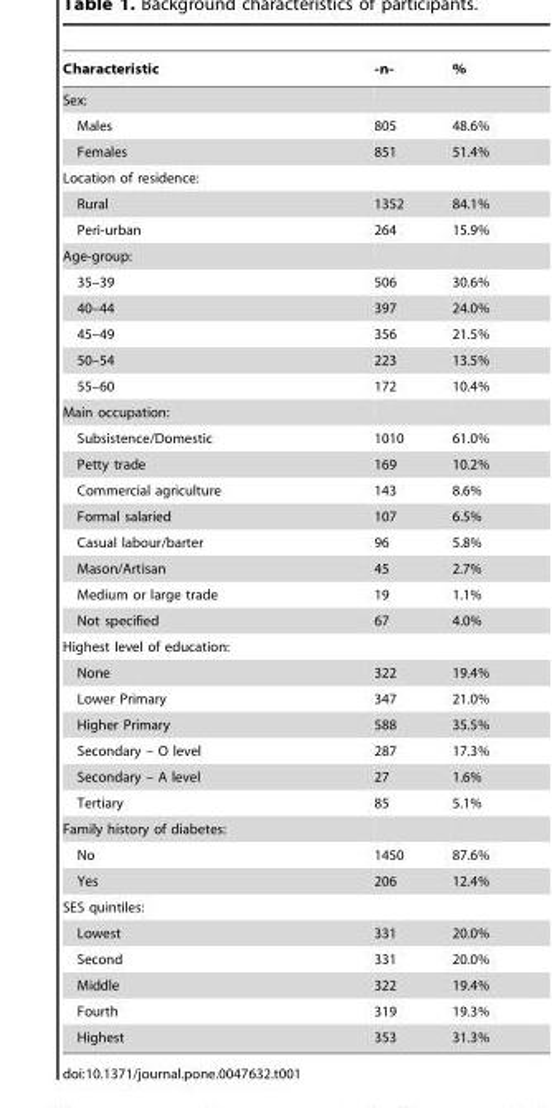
<table><thead><tr><td>Characteristic</td><td>-n-</td><td>%</td></tr></thead><tbody><tr><td colspan="3">Sex:</td></tr><tr><td>Males</td><td>805</td><td>48.6%</td></tr><tr><td>Females</td><td>851</td><td>51.4%</td></tr><tr><td colspan="3">Location of residence:</td></tr><tr><td>Rural</td><td>1352</td><td>84.1%</td></tr><tr><td>Peri-urban</td><td>264</td><td>15.9%</td></tr><tr><td colspan="3">Age-group:</td></tr><tr><td>35–39</td><td>506</td><td>30.6%</td></tr><tr><td>40–44</td><td>397</td><td>24.0%</td></tr><tr><td>45–49</td><td>356</td><td>21.5%</td></tr><tr><td>50–54</td><td>223</td><td>13.5%</td></tr><tr><td>55–60</td><td>172</td><td>10.4%</td></tr><tr><td colspan="3">Main occupation:</td></tr><tr><td>Subsistence/Domestic</td><td>1010</td><td>61.0%</td></tr><tr><td>Petty trade</td><td>169</td><td>10.2%</td></tr><tr><td>Commercial agriculture</td><td>143</td><td>8.6%</td></tr><tr><td>Formal salaried</td><td>107</td><td>6.5%</td></tr><tr><td>Casual labour/barter</td><td>96</td><td>5.8%</td></tr><tr><td>Mason/Artisan</td><td>45</td><td>2.7%</td></tr><tr><td>Medium or large trade</td><td>19</td><td>1.1%</td></tr><tr><td>Not specified</td><td>67</td><td>4.0%</td></tr><tr><td colspan="3">Highest level of education:</td></tr><tr><td>None</td><td>322</td><td>19.4%</td></tr><tr><td>Lower Primary</td><td>347</td><td>21.0%</td></tr><tr><td>Higher Primary</td><td>588</td><td>35.5%</td></tr><tr><td>Secondary – O level</td><td>287</td><td>17.3%</td></tr><tr><td>Secondary – A level</td><td>27</td><td>1.6%</td></tr><tr><td>Tertiary</td><td>85</td><td>5.1%</td></tr><tr><td colspan="3">Family history of diabetes:</td></tr><tr><td>No</td><td>1450</td><td>87.6%</td></tr><tr><td>Yes</td><td>206</td><td>12.4%</td></tr><tr><td colspan="3">SES quintiles:</td></tr><tr><td>Lowest</td><td>331</td><td>20.0%</td></tr><tr><td>Second</td><td>331</td><td>20.0%</td></tr><tr><td>Middle</td><td>322</td><td>19.4%</td></tr><tr><td>Fourth</td><td>319</td><td>19.3%</td></tr><tr><td>Highest</td><td>353</td><td>31.3%</td></tr></tbody></table>